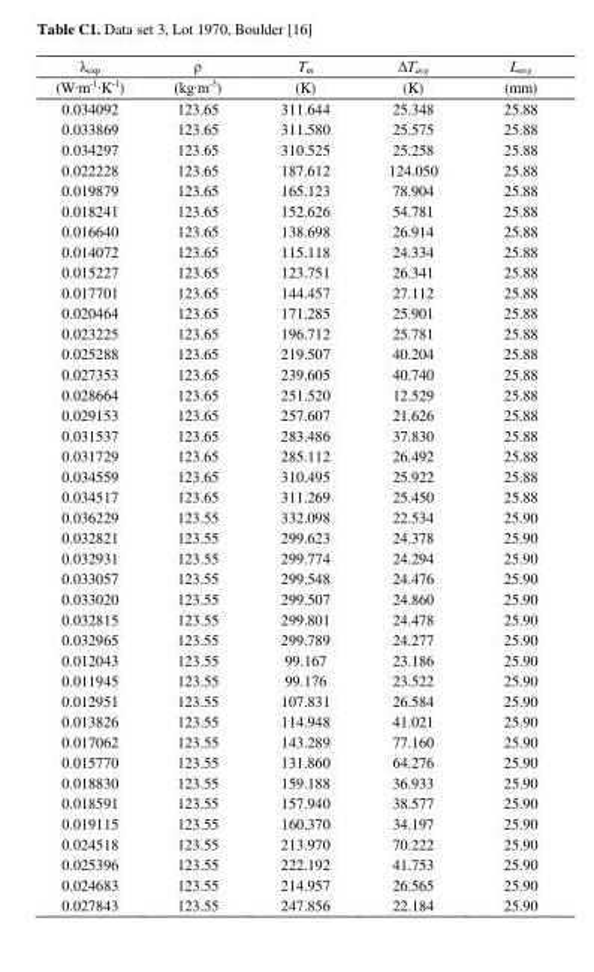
<table><thead><tr><td rowspan="2">λexp (W∙m-1∙K-1)</td><td rowspan="2">ρ (kg∙m-3)</td><td rowspan="2">Tm (K)</td><td rowspan="2">ΔTavg (K)</td><td rowspan="2">Lavg (mm)</td></tr><tr></tr></thead><tbody><tr><td>0.034092</td><td>123.65</td><td>311.644</td><td>25.348</td><td>25.88</td></tr><tr><td>0.033869</td><td>123.65</td><td>311.580</td><td>25.575</td><td>25.88</td></tr><tr><td>0.034297</td><td>123.65</td><td>310.525</td><td>25.258</td><td>25.88</td></tr><tr><td>0.022228</td><td>123.65</td><td>187.612</td><td>124.050</td><td>25.88</td></tr><tr><td>0.019879</td><td>123.65</td><td>165.123</td><td>78.904</td><td>25.88</td></tr><tr><td>0.018241</td><td>123.65</td><td>152.626</td><td>54.781</td><td>25.88</td></tr><tr><td>0.016640</td><td>123.65</td><td>138.698</td><td>26.914</td><td>25.88</td></tr><tr><td>0.014072</td><td>123.65</td><td>115.118</td><td>24.334</td><td>25.88</td></tr><tr><td>0.015227</td><td>123.65</td><td>123.751</td><td>26.341</td><td>25.88</td></tr><tr><td>0.017701</td><td>123.65</td><td>144.457</td><td>27.112</td><td>25.88</td></tr><tr><td>0.020464</td><td>123.65</td><td>171.285</td><td>25.901</td><td>25.88</td></tr><tr><td>0.023225</td><td>123.65</td><td>196.712</td><td>25.781</td><td>25.88</td></tr><tr><td>0.025288</td><td>123.65</td><td>219.507</td><td>40.204</td><td>25.88</td></tr><tr><td>0.027353</td><td>123.65</td><td>239.605</td><td>40.740</td><td>25.88</td></tr><tr><td>0.028664</td><td>123.65</td><td>251.520</td><td>12.529</td><td>25.88</td></tr><tr><td>0.029153</td><td>123.65</td><td>257.607</td><td>21.626</td><td>25.88</td></tr><tr><td>0.031537</td><td>123.65</td><td>283.486</td><td>37.830</td><td>25.88</td></tr><tr><td>0.031729</td><td>123.65</td><td>285.112</td><td>26.492</td><td>25.88</td></tr><tr><td>0.034559</td><td>123.65</td><td>310.495</td><td>25.922</td><td>25.88</td></tr><tr><td>0.034517</td><td>123.65</td><td>311.269</td><td>25.450</td><td>25.88</td></tr><tr><td>0.036229</td><td>123.55</td><td>332.098</td><td>22.534</td><td>25.90</td></tr><tr><td>0.032821</td><td>123.55</td><td>299.623</td><td>24.378</td><td>25.90</td></tr><tr><td>0.032931</td><td>123.55</td><td>299.774</td><td>24.294</td><td>25.90</td></tr><tr><td>0.033057</td><td>123.55</td><td>299.548</td><td>24.476</td><td>25.90</td></tr><tr><td>0.033020</td><td>123.55</td><td>299.507</td><td>24.860</td><td>25.90</td></tr><tr><td>0.032815</td><td>123.55</td><td>299.801</td><td>24.478</td><td>25.90</td></tr><tr><td>0.032965</td><td>123.55</td><td>299.789</td><td>24.277</td><td>25.90</td></tr><tr><td>0.012043</td><td>123.55</td><td>99.167</td><td>23.186</td><td>25.90</td></tr><tr><td>0.011945</td><td>123.55</td><td>99.176</td><td>23.522</td><td>25.90</td></tr><tr><td>0.012951</td><td>123.55</td><td>107.831</td><td>26.584</td><td>25.90</td></tr><tr><td>0.013826</td><td>123.55</td><td>114.948</td><td>41.021</td><td>25.90</td></tr><tr><td>0.017062</td><td>123.55</td><td>143.289</td><td>77.160</td><td>25.90</td></tr><tr><td>0.015770</td><td>123.55</td><td>131.860</td><td>64.276</td><td>25.90</td></tr><tr><td>0.018830</td><td>123.55</td><td>159.188</td><td>36.933</td><td>25.90</td></tr><tr><td>0.018591</td><td>123.55</td><td>157.940</td><td>38.577</td><td>25.90</td></tr><tr><td>0.019115</td><td>123.55</td><td>160.370</td><td>34.197</td><td>25.90</td></tr><tr><td>0.024518</td><td>123.55</td><td>213.970</td><td>70.222</td><td>25.90</td></tr><tr><td>0.025396</td><td>123.55</td><td>222.192</td><td>41.753</td><td>25.90</td></tr><tr><td>0.024683</td><td>123.55</td><td>214.957</td><td>26.565</td><td>25.90</td></tr><tr><td>0.027843</td><td>123.55</td><td>247.856</td><td>22.184</td><td>25.90</td></tr></tbody></table>